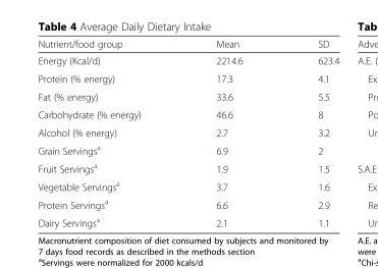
<table><thead><tr><td>Nutrient/food group</td><td>Mean</td><td>SD</td></tr></thead><tbody><tr><td>Energy (Kcal/d)</td><td>2214.6</td><td>623.4</td></tr><tr><td>Protein (% energy)</td><td>17.3</td><td>4.1</td></tr><tr><td>Fat (% energy)</td><td>33.6</td><td>5.5</td></tr><tr><td>Carbohydrate (% energy)</td><td>46.6</td><td>8</td></tr><tr><td>Alcohol (% energy)</td><td>2.7</td><td>3.2</td></tr><tr><td>Grain Servings<sup>a</sup></td><td>6.9</td><td>2</td></tr><tr><td>Fruit Servings<sup>a</sup></td><td>1.9</td><td>1.5</td></tr><tr><td>Vegetable Servings<sup>a</sup></td><td>3.7</td><td>1.6</td></tr><tr><td>Protein Servings<sup>a</sup></td><td>6.6</td><td>2.9</td></tr><tr><td>Dairy Servings<sup>a</sup></td><td>2.1</td><td>1.1</td></tr></tbody></table>